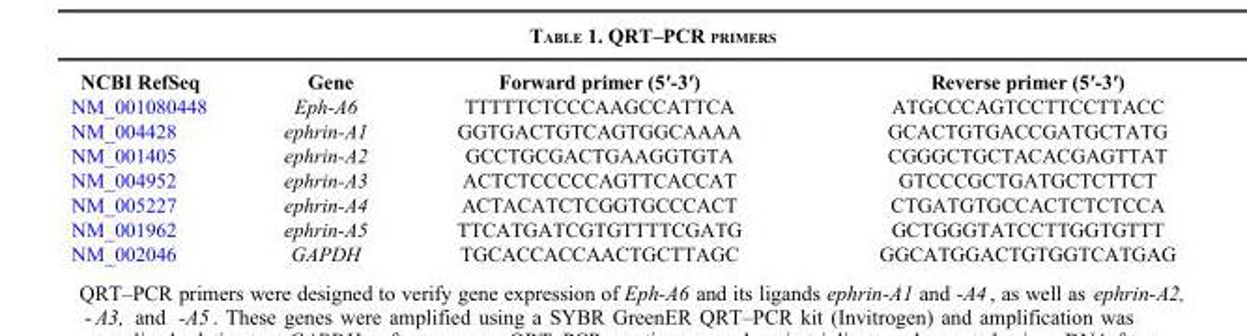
<table><thead><tr><td>NCBI RefSeq</td><td>Gene</td><td>Forward primer (5′-3′)</td><td>Reverse primer (5′-3′)</td></tr></thead><tbody><tr><td>NM_001080448</td><td>Eph-A6</td><td>TTTTTCTCCCAAGCCATTCA</td><td>ATGCCCAGTCCTTCCTTACC</td></tr><tr><td>NM_004428</td><td>ephrin-A1</td><td>GGTGACTGTCAGTGGCAAAA</td><td>GCACTGTGACCGATGCTATG</td></tr><tr><td>NM_001405</td><td>ephrin-A2</td><td>GCCTGCGACTGAAGGTGTA</td><td>CGGGCTGCTACACGAGTTAT</td></tr><tr><td>NM_004952</td><td>ephrin-A3</td><td>ACTCTCCCCCAGTTCACCAT</td><td>GTCCCGCTGATGCTCTTCT</td></tr><tr><td>NM_005227</td><td>ephrin-A4</td><td>ACTACATCTCGGTGCCCACT</td><td>CTGATGTGCCACTCTCTCCA</td></tr><tr><td>NM_001962</td><td>ephrin-A5</td><td>TTCATGATCGTGTTTTCGATG</td><td>GCTGGGTATCCTTGGTGTTT</td></tr><tr><td>NM_002046</td><td>GAPDH</td><td>TGCACCACCAACTGCTTAGC</td><td>GGCATGGACTGTGGTCATGAG</td></tr></tbody></table>